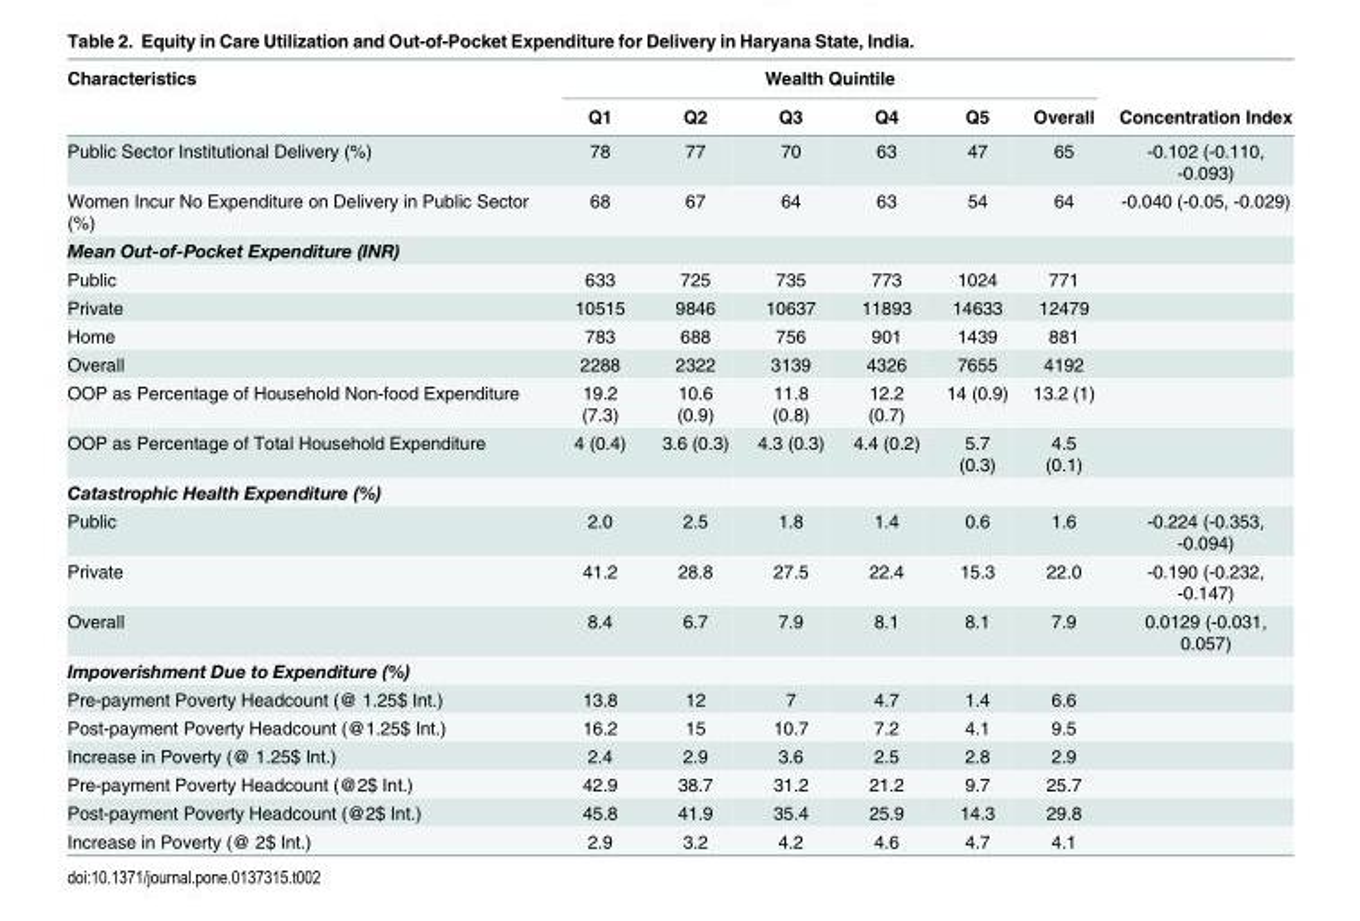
<table><thead><tr><td rowspan="2">Characteristics</td><td colspan="6">Wealth Quintile</td><td rowspan="2">Concentration Index</td></tr><tr><td>Q1</td><td>Q2</td><td>Q3</td><td>Q4</td><td>Q5</td><td>Overall</td></tr></thead><tbody><tr><td>Public Sector Institutional Delivery (%)</td><td>78</td><td>77</td><td>70</td><td>63</td><td>47</td><td>65</td><td>-0.102 (-0.110, -0.093)</td></tr><tr><td>Women Incur No Expenditure on Delivery in Public Sector (%)</td><td>68</td><td>67</td><td>64</td><td>63</td><td>54</td><td>64</td><td>-0.040 (-0.05, -0.029)</td></tr><tr><td colspan="8">Mean Out-of-Pocket Expenditure (INR)</td></tr><tr><td>Public</td><td>633</td><td>725</td><td>735</td><td>773</td><td>1024</td><td>771</td><td></td></tr><tr><td>Private</td><td>10515</td><td>9846</td><td>10637</td><td>11893</td><td>14633</td><td>12479</td><td></td></tr><tr><td>Home</td><td>783</td><td>688</td><td>756</td><td>901</td><td>1439</td><td>881</td><td></td></tr><tr><td>Overall</td><td>2288</td><td>2322</td><td>3139</td><td>4326</td><td>7655</td><td>4192</td><td></td></tr><tr><td>OOP as Percentage of Household Non-food Expenditure</td><td>19.2 (7.3)</td><td>10.6 (0.9)</td><td>11.8 (0.8)</td><td>12.2 (0.7)</td><td>14 (0.9)</td><td>13.2 (1)</td><td></td></tr><tr><td>OOP as Percentage of Total Household Expenditure</td><td>4 (0.4)</td><td>3.6 (0.3)</td><td>4.3 (0.3)</td><td>4.4 (0.2)</td><td>5.7 (0.3)</td><td>4.5 (0.1)</td><td></td></tr><tr><td colspan="8">Catastrophic Health Expenditure (%)</td></tr><tr><td>Public</td><td>2.0</td><td>2.5</td><td>1.8</td><td>1.4</td><td>0.6</td><td>1.6</td><td>-0.224 (-0.353, -0.094)</td></tr><tr><td>Private</td><td>41.2</td><td>28.8</td><td>27.5</td><td>22.4</td><td>15.3</td><td>22.0</td><td>-0.190 (-0.232, -0.147)</td></tr><tr><td>Overall</td><td>8.4</td><td>6.7</td><td>7.9</td><td>8.1</td><td>8.1</td><td>7.9</td><td>0.0129 (-0.031, 0.057)</td></tr><tr><td colspan="8">Impoverishment Due to Expenditure (%)</td></tr><tr><td>Pre-payment Poverty Headcount (@ 1.25$ Int.)</td><td>13.8</td><td>12</td><td>7</td><td>4.7</td><td>1.4</td><td>6.6</td><td></td></tr><tr><td>Post-payment Poverty Headcount (@1.25$ Int.)</td><td>16.2</td><td>15</td><td>10.7</td><td>7.2</td><td>4.1</td><td>9.5</td><td></td></tr><tr><td>Increase in Poverty (@ 1.25$ Int.)</td><td>2.4</td><td>2.9</td><td>3.6</td><td>2.5</td><td>2.8</td><td>2.9</td><td></td></tr><tr><td>Pre-payment Poverty Headcount (@2$ Int.)</td><td>42.9</td><td>38.7</td><td>31.2</td><td>21.2</td><td>9.7</td><td>25.7</td><td></td></tr><tr><td>Post-payment Poverty Headcount (@2$ Int.)</td><td>45.8</td><td>41.9</td><td>35.4</td><td>25.9</td><td>14.3</td><td>29.8</td><td></td></tr><tr><td>Increase in Poverty (@ 2$ Int.)</td><td>2.9</td><td>3.2</td><td>4.2</td><td>4.6</td><td>4.7</td><td>4.1</td><td></td></tr></tbody></table>